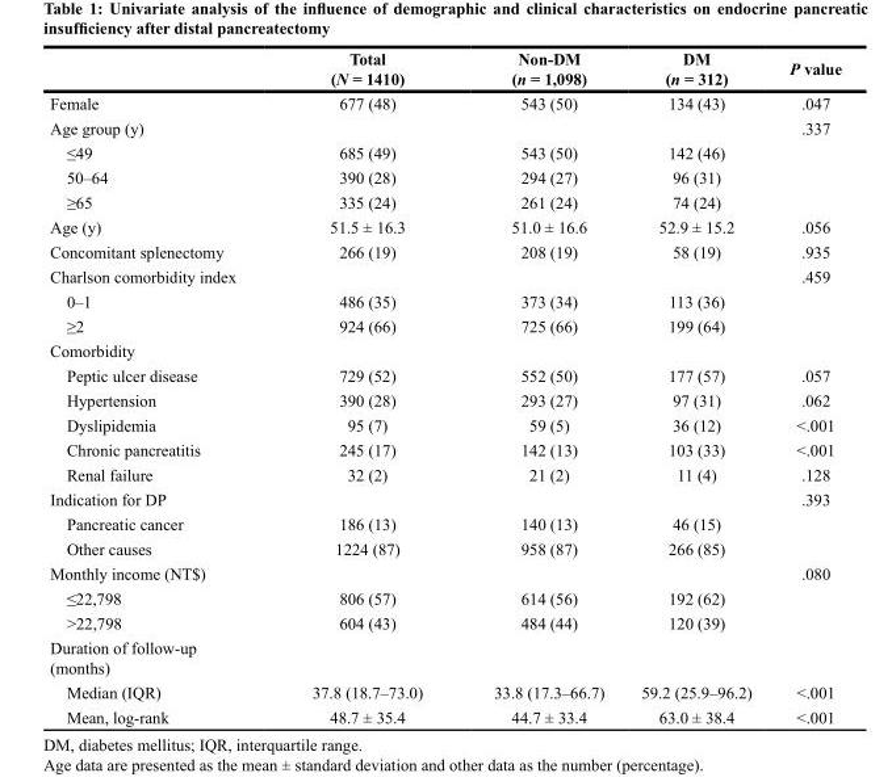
<table><thead><tr><td></td><td>Total (N = 1410)</td><td>Non-DM (n = 1,098)</td><td>DM (n = 312)</td><td>P value</td></tr></thead><tbody><tr><td>Female</td><td>677 (48)</td><td>543 (50)</td><td>134 (43)</td><td>.047</td></tr><tr><td>Age group (y)</td><td></td><td></td><td></td><td>.337</td></tr><tr><td>≤49</td><td>685 (49)</td><td>543 (50)</td><td>142 (46)</td><td></td></tr><tr><td>50–64</td><td>390 (28)</td><td>294 (27)</td><td>96 (31)</td><td></td></tr><tr><td>≥65</td><td>335 (24)</td><td>261 (24)</td><td>74 (24)</td><td></td></tr><tr><td>Age (y)</td><td>51.5 ± 16.3</td><td>51.0 ± 16.6</td><td>52.9 ± 15.2</td><td>.056</td></tr><tr><td>Concomitant splenectomy</td><td>266 (19)</td><td>208 (19)</td><td>58 (19)</td><td>.935</td></tr><tr><td>Charlson comorbidity index</td><td></td><td></td><td></td><td>.459</td></tr><tr><td>0–1</td><td>486 (35)</td><td>373 (34)</td><td>113 (36)</td><td></td></tr><tr><td>≥2</td><td>924 (66)</td><td>725 (66)</td><td>199 (64)</td><td></td></tr><tr><td colspan="5">Comorbidity</td></tr><tr><td>Peptic ulcer disease</td><td>729 (52)</td><td>552 (50)</td><td>177 (57)</td><td>.057</td></tr><tr><td>Hypertension</td><td>390 (28)</td><td>293 (27)</td><td>97 (31)</td><td>.062</td></tr><tr><td>Dyslipidemia</td><td>95 (7)</td><td>59 (5)</td><td>36 (12)</td><td>&lt;.001</td></tr><tr><td>Chronic pancreatitis</td><td>245 (17)</td><td>142 (13)</td><td>103 (33)</td><td>&lt;.001</td></tr><tr><td>Renal failure</td><td>32 (2)</td><td>21 (2)</td><td>11 (4)</td><td>.128</td></tr><tr><td>Indication for DP</td><td></td><td></td><td></td><td>.393</td></tr><tr><td>Pancreatic cancer</td><td>186 (13)</td><td>140 (13)</td><td>46 (15)</td><td></td></tr><tr><td>Other causes</td><td>1224 (87)</td><td>958 (87)</td><td>266 (85)</td><td></td></tr><tr><td>Monthly income (NT$)</td><td></td><td></td><td></td><td>.080</td></tr><tr><td>≤22,798</td><td>806 (57)</td><td>614 (56)</td><td>192 (62)</td><td></td></tr><tr><td>&gt;22,798</td><td>604 (43)</td><td>484 (44)</td><td>120 (39)</td><td></td></tr><tr><td colspan="5">Duration of follow-up (months)</td></tr><tr><td>Median (IQR)</td><td>37.8 (18.7–73.0)</td><td>33.8 (17.3–66.7)</td><td>59.2 (25.9–96.2)</td><td>&lt;.001</td></tr><tr><td>Mean, log-rank</td><td>48.7 ± 35.4</td><td>44.7 ± 33.4</td><td>63.0 ± 38.4</td><td>&lt;.001</td></tr></tbody></table>